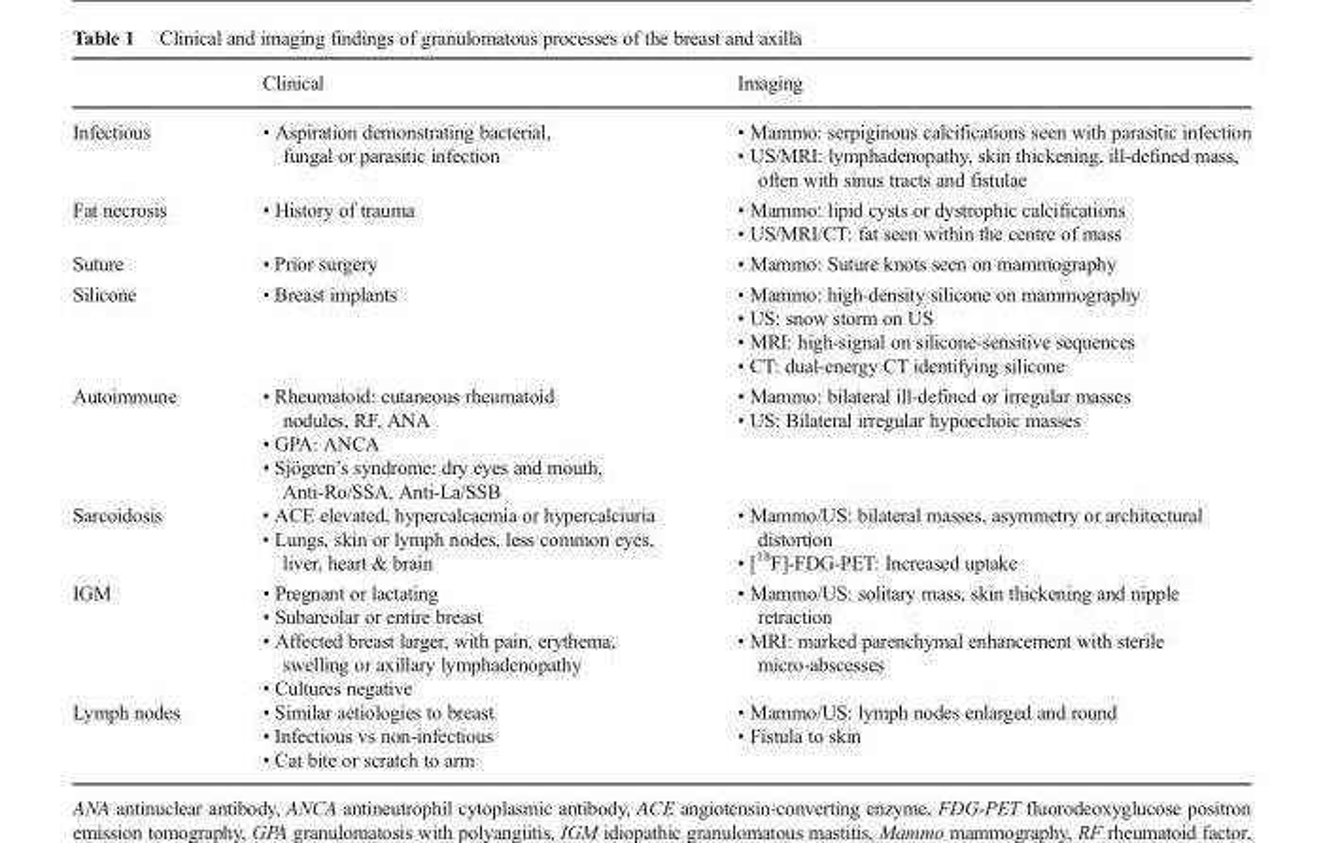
<table><thead><tr><td></td><td>Clinical</td><td>Imaging</td></tr></thead><tbody><tr><td>Infectious</td><td>• Aspiration demonstrating bacterial, fungal or parasitic infection</td><td>• Mammo: serpiginous calcifications seen with parasitic infection • US/MRI: lymphadenopathy, skin thickening, ill-defined mass, often with sinus tracts and fistulae</td></tr><tr><td>Fat necrosis</td><td>• History of trauma</td><td>• Mammo: lipid cysts or dystrophic calcifications • US/MRI/CT: fat seen within the centre of mass</td></tr><tr><td>Suture</td><td>• Prior surgery</td><td>• Mammo: Suture knots seen on mammography</td></tr><tr><td>Silicone</td><td>• Breast implants</td><td>• Mammo: high-density silicone on mammography • US: snow storm on US • MRI: high-signal on silicone-sensitive sequences • CT: dual-energy CT identifying silicone</td></tr><tr><td>Autoimmune</td><td>• Rheumatoid: cutaneous rheumatoid nodules, RF, ANA • GPA: ANCA • Sjögren’s syndrome: dry eyes and mouth, Anti-Ro/SSA, Anti-La/SSB</td><td>• Mammo: bilateral ill-defined or irregular masses • US: Bilateral irregular hypoechoic masses</td></tr><tr><td>Sarcoidosis</td><td>• ACE elevated, hypercalcaemia or hypercalciuria • Lungs, skin or lymph nodes, less common eyes, liver, heart &amp; brain</td><td>• Mammo/US: bilateral masses, asymmetry or architectural distortion • [<sup>18</sup>F]-FDG-PET: Increased uptake</td></tr><tr><td>IGM</td><td>• Pregnant or lactating • Subareolar or entire breast • Affected breast larger, with pain, erythema, swelling or axillary lymphadenopathy • Cultures negative</td><td>• Mammo/US: solitary mass, skin thickening and nipple retraction • MRI: marked parenchymal enhancement with sterile micro-abscesses</td></tr><tr><td>Lymph nodes</td><td>• Similar aetiologies to breast • Infectious vs non-infectious • Cat bite or scratch to arm</td><td>• Mammo/US: lymph nodes enlarged and round • Fistula to skin</td></tr></tbody></table>